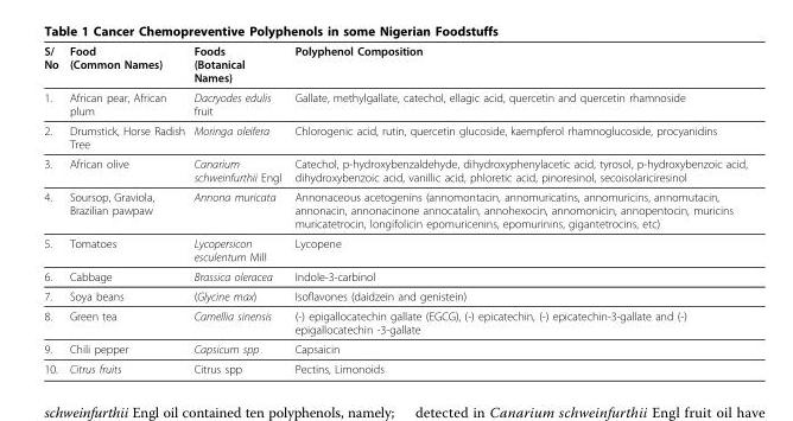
<table><thead><tr><td>S/ No</td><td>Food (Common Names)</td><td>Foods (Botanical Names)</td><td>Polyphenol Composition</td></tr></thead><tbody><tr><td>1.</td><td>African pear, African plum</td><td>Dacryodes edulis fruit</td><td>Gallate, methylgallate, catechol, ellagic acid, quercetin and quercetin rhamnoside</td></tr><tr><td>2.</td><td>Drumstick, Horse Radish Tree</td><td>Moringa oleifera</td><td>Chlorogenic acid, rutin, quercetin glucoside, kaempferol rhamnoglucoside, procyanidins</td></tr><tr><td>3.</td><td>African olive</td><td>Canarium schweinfurthii Engl</td><td>Catechol, p-hydroxybenzaldehyde, dihydroxyphenylacetic acid, tyrosol, p-hydroxybenzoic acid, dihydroxybenzoic acid, vanillic acid, phloretic acid, pinoresinol, secoisolariciresinol</td></tr><tr><td>4.</td><td>Soursop, Graviola, Brazilian pawpaw</td><td>Annona muricata</td><td>Annonaceous acetogenins (annomontacin, annomuricatins, annomuricins, annomutacin, annonacin, annonacinone annocatalin, annohexocin, annomonicin, annopentocin, muricins muricatetrocin, longifolicin epomuricenins, epomurinins, gigantetrocins, etc)</td></tr><tr><td>5.</td><td>Tomatoes</td><td>Lycopersicon esculentum Mill</td><td>Lycopene</td></tr><tr><td>6.</td><td>Cabbage</td><td>Brassica oleracea</td><td>Indole-3-carbinol</td></tr><tr><td>7.</td><td>Soya beans</td><td>(Glycine max)</td><td>Isoflavones (daidzein and genistein)</td></tr><tr><td>8.</td><td>Green tea</td><td>Camellia sinensis</td><td>(-) epigallocatechin gallate (EGCG), (-) epicatechin, (-) epicatechin-3-gallate and (-) epigallocatechin -3-gallate</td></tr><tr><td>9.</td><td>Chili pepper</td><td>Capsicum spp</td><td>Capsaicin</td></tr><tr><td>10.</td><td>Citrus fruits</td><td>Citrus spp</td><td>Pectins, Limonoids</td></tr></tbody></table>